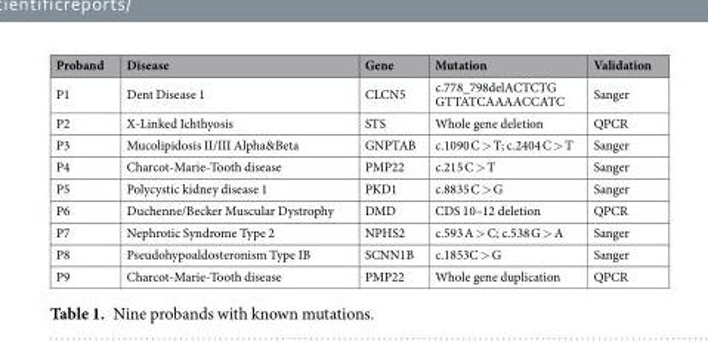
<table><thead><tr><td>Proband</td><td>Disease</td><td>Gene</td><td>Mutation</td><td>Validation</td></tr></thead><tbody><tr><td>P1</td><td>Dent Disease 1</td><td>CLCN5</td><td>c.778_798delACTCTG GTTATCAAAACCATC</td><td>Sanger</td></tr><tr><td>P2</td><td>X-Linked Ichthyosis</td><td>STS</td><td>Whole gene deletion</td><td>QPCR</td></tr><tr><td>P3</td><td>Mucolipidosis II/III Alpha&amp;Beta</td><td>GNPTAB</td><td>c.1090 C &gt; T; c.2404 C &gt; T</td><td>Sanger</td></tr><tr><td>P4</td><td>Charcot-Marie-Tooth disease</td><td>PMP22</td><td>c.215 C &gt; T</td><td>Sanger</td></tr><tr><td>P5</td><td>Polycystic kidney disease 1</td><td>PKD1</td><td>c.8835 C &gt; G</td><td>Sanger</td></tr><tr><td>P6</td><td>Duchenne/Becker Muscular Dystrophy</td><td>DMD</td><td>CDS 10–12 deletion</td><td>QPCR</td></tr><tr><td>P7</td><td>Nephrotic Syndrome Type 2</td><td>NPHS2</td><td>c.593 A &gt; C; c.538 G &gt; A</td><td>Sanger</td></tr><tr><td>P8</td><td>Pseudohypoaldosteronism Type IB</td><td>SCNN1B</td><td>c.1853C &gt; G</td><td>Sanger</td></tr><tr><td>P9</td><td>Charcot-Marie-Tooth disease</td><td>PMP22</td><td>Whole gene duplication</td><td>QPCR</td></tr></tbody></table>